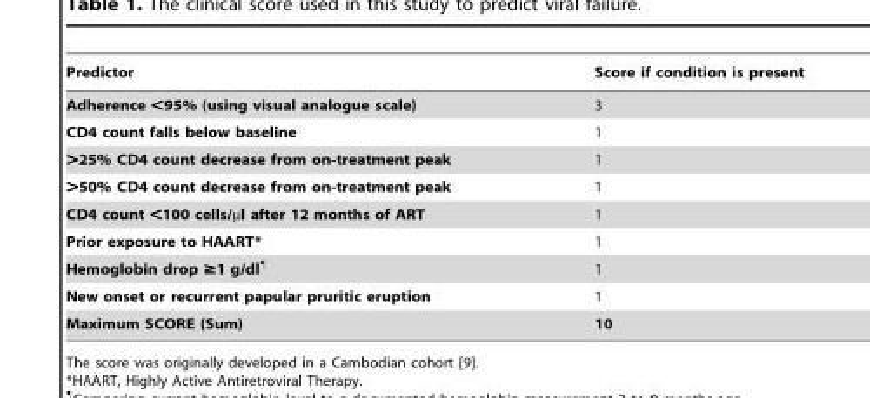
<table><thead><tr><td>Predictor</td><td>Score if condition is present</td></tr></thead><tbody><tr><td>Adherence &lt;95% (using visual analogue scale)</td><td>3</td></tr><tr><td>CD4 count falls below baseline</td><td>1</td></tr><tr><td>&gt;25% CD4 count decrease from on-treatment peak</td><td>1</td></tr><tr><td>&gt;50% CD4 count decrease from on-treatment peak</td><td>1</td></tr><tr><td>CD4 count &lt;100 cells/µl after 12 months of ART</td><td>1</td></tr><tr><td>Prior exposure to HAART*</td><td>1</td></tr><tr><td>Hemoglobin drop ≥1 g/dl¶</td><td>1</td></tr><tr><td>New onset or recurrent papular pruritic eruption</td><td>1</td></tr><tr><td>Maximum SCORE (Sum)</td><td>10</td></tr></tbody></table>